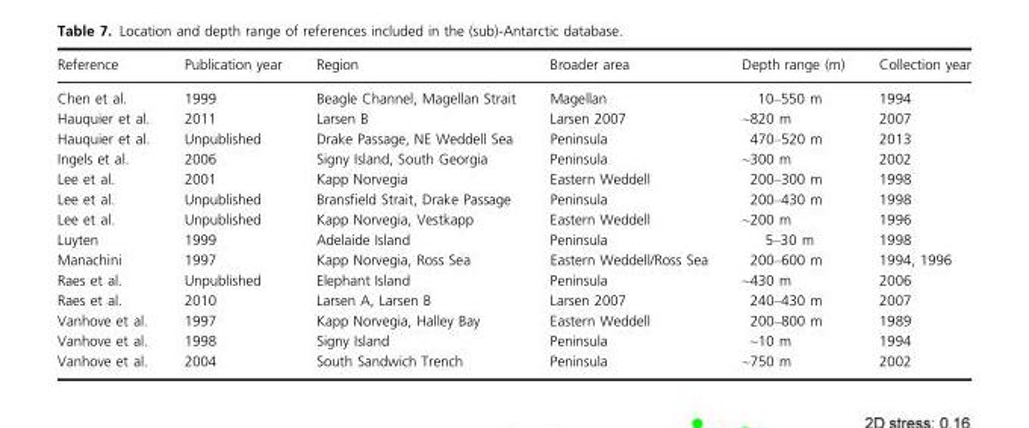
<table><thead><tr><td>Reference</td><td>Publication year</td><td>Region</td><td>Broader area</td><td>Depth range (m)</td><td>Collection year</td></tr></thead><tbody><tr><td>Chen et al.</td><td>1999</td><td>Beagle Channel, Magellan Strait</td><td>Magellan</td><td>10–550 m</td><td>1994</td></tr><tr><td>Hauquier et al.</td><td>2011</td><td>Larsen B</td><td>Larsen 2007</td><td>~820 m</td><td>2007</td></tr><tr><td>Hauquier et al.</td><td>Unpublished</td><td>Drake Passage, NE Weddell Sea</td><td>Peninsula</td><td>470–520 m</td><td>2013</td></tr><tr><td>Ingels et al.</td><td>2006</td><td>Signy Island, South Georgia</td><td>Peninsula</td><td>~300 m</td><td>2002</td></tr><tr><td>Lee et al.</td><td>2001</td><td>Kapp Norvegia</td><td>Eastern Weddell</td><td>200–300 m</td><td>1998</td></tr><tr><td>Lee et al.</td><td>Unpublished</td><td>Bransfield Strait, Drake Passage</td><td>Peninsula</td><td>200–430 m</td><td>1998</td></tr><tr><td>Lee et al.</td><td>Unpublished</td><td>Kapp Norvegia, Vestkapp</td><td>Eastern Weddell</td><td>~200 m</td><td>1996</td></tr><tr><td>Luyten</td><td>1999</td><td>Adelaide Island</td><td>Peninsula</td><td>5–30 m</td><td>1998</td></tr><tr><td>Manachini</td><td>1997</td><td>Kapp Norvegia, Ross Sea</td><td>Eastern Weddell/Ross Sea</td><td>200–600 m</td><td>1994, 1996</td></tr><tr><td>Raes et al.</td><td>Unpublished</td><td>Elephant Island</td><td>Peninsula</td><td>~430 m</td><td>2006</td></tr><tr><td>Raes et al.</td><td>2010</td><td>Larsen A, Larsen B</td><td>Larsen 2007</td><td>240–430 m</td><td>2007</td></tr><tr><td>Vanhove et al.</td><td>1997</td><td>Kapp Norvegia, Halley Bay</td><td>Eastern Weddell</td><td>200–800 m</td><td>1989</td></tr><tr><td>Vanhove et al.</td><td>1998</td><td>Signy Island</td><td>Peninsula</td><td>~10 m</td><td>1994</td></tr><tr><td>Vanhove et al.</td><td>2004</td><td>South Sandwich Trench</td><td>Peninsula</td><td>~750 m</td><td>2002</td></tr></tbody></table>